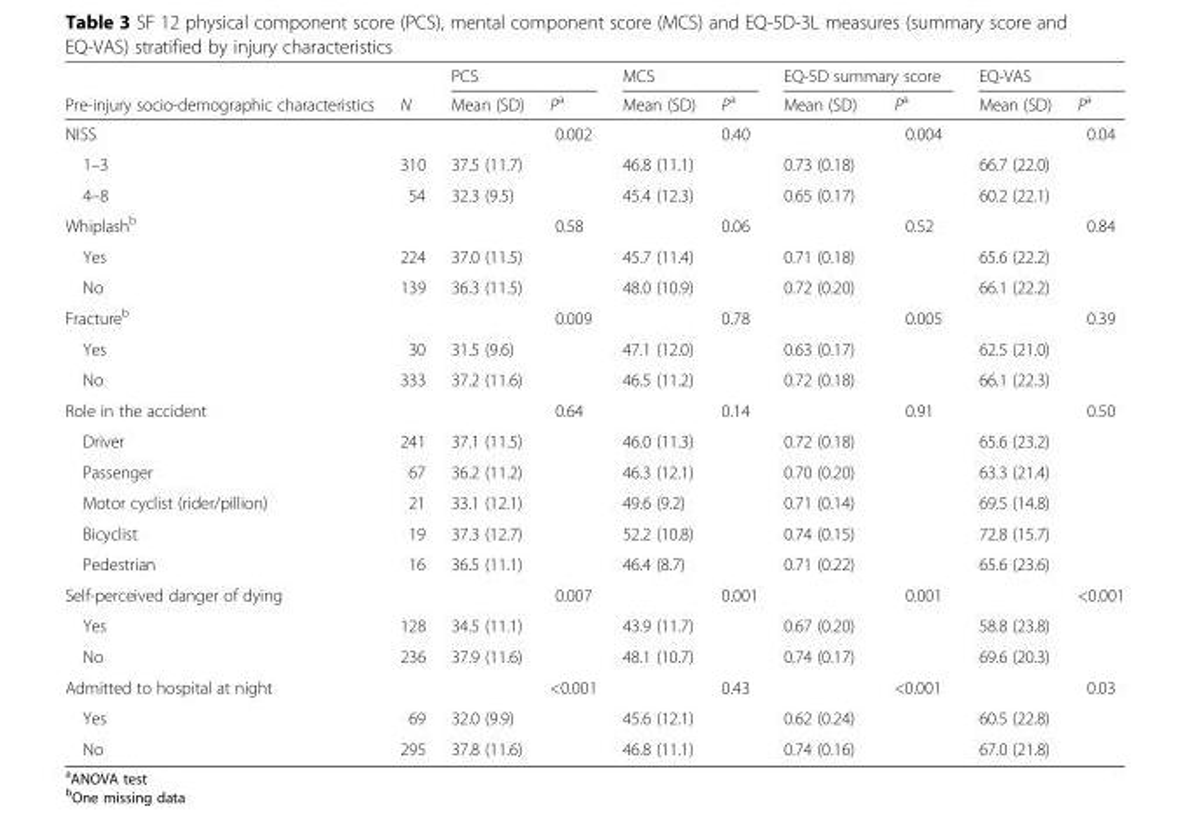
<table><thead><tr><td rowspan="2">Pre-injury socio-demographic characteristics</td><td rowspan="2">N</td><td colspan="2">PCS</td><td colspan="2">MCS</td><td colspan="2">EQ-5D summary score</td><td colspan="2">EQ-VAS</td></tr><tr><td>Mean (SD)</td><td>P<sup>a</sup></td><td>Mean (SD)</td><td>P<sup>a</sup></td><td>Mean (SD)</td><td>P<sup>a</sup></td><td>Mean (SD)</td><td>P<sup>a</sup></td></tr></thead><tbody><tr><td>NISS</td><td></td><td></td><td>0.002</td><td></td><td>0.40</td><td></td><td>0.004</td><td></td><td>0.04</td></tr><tr><td>1–3</td><td>310</td><td>37.5 (11.7)</td><td></td><td>46.8 (11.1)</td><td></td><td>0.73 (0.18)</td><td></td><td>66.7 (22.0)</td><td></td></tr><tr><td>4–8</td><td>54</td><td>32.3 (9.5)</td><td></td><td>45.4 (12.3)</td><td></td><td>0.65 (0.17)</td><td></td><td>60.2 (22.1)</td><td></td></tr><tr><td>Whiplash<sup>b</sup></td><td></td><td></td><td>0.58</td><td></td><td>0.06</td><td></td><td>0.52</td><td></td><td>0.84</td></tr><tr><td>Yes</td><td>224</td><td>37.0 (11.5)</td><td></td><td>45.7 (11.4)</td><td></td><td>0.71 (0.18)</td><td></td><td>65.6 (22.2)</td><td></td></tr><tr><td>No</td><td>139</td><td>36.3 (11.5)</td><td></td><td>48.0 (10.9)</td><td></td><td>0.72 (0.20)</td><td></td><td>66.1 (22.2)</td><td></td></tr><tr><td>Fracture<sup>b</sup></td><td></td><td></td><td>0.009</td><td></td><td>0.78</td><td></td><td>0.005</td><td></td><td>0.39</td></tr><tr><td>Yes</td><td>30</td><td>31.5 (9.6)</td><td></td><td>47.1 (12.0)</td><td></td><td>0.63 (0.17)</td><td></td><td>62.5 (21.0)</td><td></td></tr><tr><td>No</td><td>333</td><td>37.2 (11.6)</td><td></td><td>46.5 (11.2)</td><td></td><td>0.72 (0.18)</td><td></td><td>66.1 (22.3)</td><td></td></tr><tr><td>Role in the accident</td><td></td><td></td><td>0.64</td><td></td><td>0.14</td><td></td><td>0.91</td><td></td><td>0.50</td></tr><tr><td>Driver</td><td>241</td><td>37.1 (11.5)</td><td></td><td>46.0 (11.3)</td><td></td><td>0.72 (0.18)</td><td></td><td>65.6 (23.2)</td><td></td></tr><tr><td>Passenger</td><td>67</td><td>36.2 (11.2)</td><td></td><td>46.3 (12.1)</td><td></td><td>0.70 (0.20)</td><td></td><td>63.3 (21.4)</td><td></td></tr><tr><td>Motor cyclist (rider/pillion)</td><td>21</td><td>33.1 (12.1)</td><td></td><td>49.6 (9.2)</td><td></td><td>0.71 (0.14)</td><td></td><td>69.5 (14.8)</td><td></td></tr><tr><td>Bicyclist</td><td>19</td><td>37.3 (12.7)</td><td></td><td>52.2 (10.8)</td><td></td><td>0.74 (0.15)</td><td></td><td>72.8 (15.7)</td><td></td></tr><tr><td>Pedestrian</td><td>16</td><td>36.5 (11.1)</td><td></td><td>46.4 (8.7)</td><td></td><td>0.71 (0.22)</td><td></td><td>65.6 (23.6)</td><td></td></tr><tr><td>Self-perceived danger of dying</td><td></td><td></td><td>0.007</td><td></td><td>0.001</td><td></td><td>0.001</td><td></td><td>&lt;0.001</td></tr><tr><td>Yes</td><td>128</td><td>34.5 (11.1)</td><td></td><td>43.9 (11.7)</td><td></td><td>0.67 (0.20)</td><td></td><td>58.8 (23.8)</td><td></td></tr><tr><td>No</td><td>236</td><td>37.9 (11.6)</td><td></td><td>48.1 (10.7)</td><td></td><td>0.74 (0.17)</td><td></td><td>69.6 (20.3)</td><td></td></tr><tr><td>Admitted to hospital at night</td><td></td><td></td><td>&lt;0.001</td><td></td><td>0.43</td><td></td><td>&lt;0.001</td><td></td><td>0.03</td></tr><tr><td>Yes</td><td>69</td><td>32.0 (9.9)</td><td></td><td>45.6 (12.1)</td><td></td><td>0.62 (0.24)</td><td></td><td>60.5 (22.8)</td><td></td></tr><tr><td>No</td><td>295</td><td>37.8 (11.6)</td><td></td><td>46.8 (11.1)</td><td></td><td>0.74 (0.16)</td><td></td><td>67.0 (21.8)</td><td></td></tr></tbody></table>